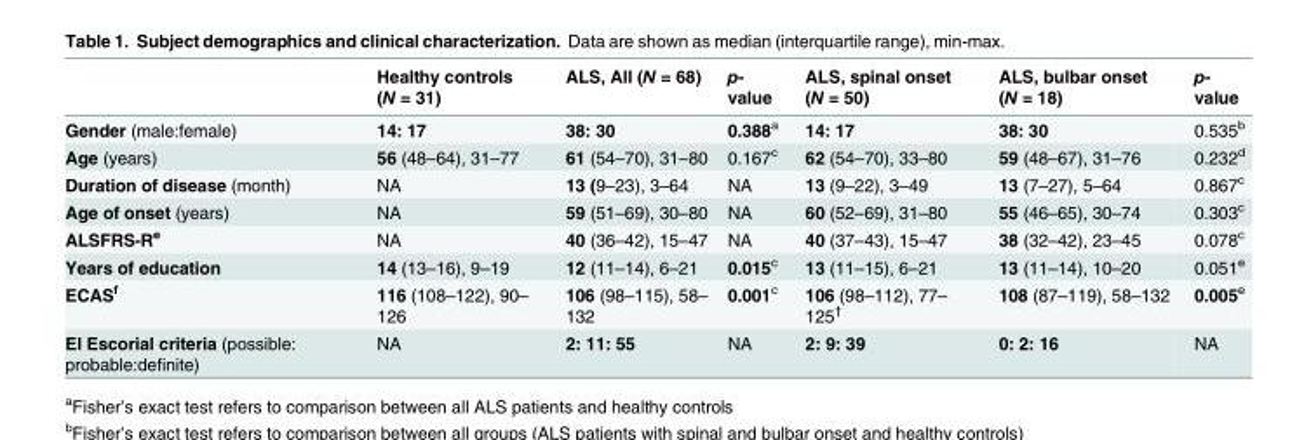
<table><thead><tr><td></td><td>Healthy controls (N = 31)</td><td>ALS, All (N = 68)</td><td>p- value</td><td>ALS, spinal onset (N = 50)</td><td>ALS, bulbar onset (N = 18)</td><td>p- value</td></tr></thead><tbody><tr><td>Gender (male:female)</td><td>14: 17</td><td>38: 30</td><td>0.388<sup>a</sup></td><td>14: 17</td><td>38: 30</td><td>0.535<sup>b</sup></td></tr><tr><td>Age (years)</td><td>56 (48–64), 31–77</td><td>61 (54–70), 31–80</td><td>0.167<sup>c</sup></td><td>62 (54–70), 33–80</td><td>59 (48–67), 31–76</td><td>0.232<sup>d</sup></td></tr><tr><td>Duration of disease (month)</td><td>NA</td><td>13 (9–23), 3–64</td><td>NA</td><td>13 (9–22), 3–49</td><td>13 (7–27), 5–64</td><td>0.867<sup>c</sup></td></tr><tr><td>Age of onset (years)</td><td>NA</td><td>59 (51–69), 30–80</td><td>NA</td><td>60 (52–69), 31–80</td><td>55 (46–65), 30–74</td><td>0.303<sup>c</sup></td></tr><tr><td>ALSFRS-R<sup>e</sup></td><td>NA</td><td>40 (36–42), 15–47</td><td>NA</td><td>40 (37–43), 15–47</td><td>38 (32–42), 23–45</td><td>0.078<sup>c</sup></td></tr><tr><td>Years of education</td><td>14 (13–16), 9–19</td><td>12 (11–14), 6–21</td><td>0.015<sup>c</sup></td><td>13 (11–15), 6–21</td><td>13 (11–14), 10–20</td><td>0.051<sup>e</sup></td></tr><tr><td>ECAS<sup>f</sup></td><td>116 (108–122), 90– 126</td><td>106 (98–115), 58– 132</td><td>0.001<sup>c</sup></td><td>106 (98–112), 77– 125<sup>†</sup></td><td>108 (87–119), 58–132</td><td>0.005<sup>e</sup></td></tr><tr><td>El Escorial criteria (possible: probable:definite)</td><td>NA</td><td>2: 11: 55</td><td>NA</td><td>2: 9: 39</td><td>0: 2: 16</td><td>NA</td></tr></tbody></table>